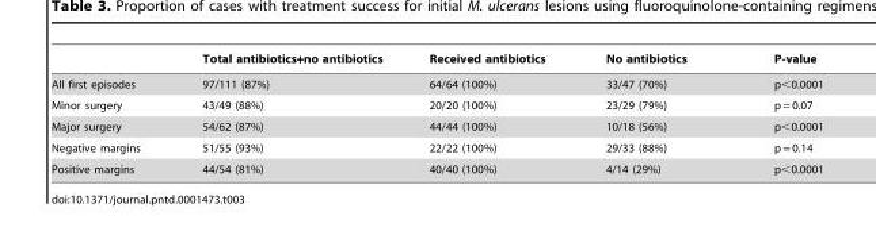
<table><thead><tr><td></td><td>Total antibiotics+no antibiotics</td><td>Received antibiotics</td><td>No antibiotics</td><td>P-value</td></tr></thead><tbody><tr><td>All first episodes</td><td>97/111 (87%)</td><td>64/64 (100%)</td><td>33/47 (70%)</td><td>p&lt;0.0001</td></tr><tr><td>Minor surgery</td><td>43/49 (88%)</td><td>20/20 (100%)</td><td>23/29 (79%)</td><td>p = 0.07</td></tr><tr><td>Major surgery</td><td>54/62 (87%)</td><td>44/44 (100%)</td><td>10/18 (56%)</td><td>p&lt;0.0001</td></tr><tr><td>Negative margins</td><td>51/55 (93%)</td><td>22/22 (100%)</td><td>29/33 (88%)</td><td>p = 0.14</td></tr><tr><td>Positive margins</td><td>44/54 (81%)</td><td>40/40 (100%)</td><td>4/14 (29%)</td><td>p&lt;0.0001</td></tr></tbody></table>